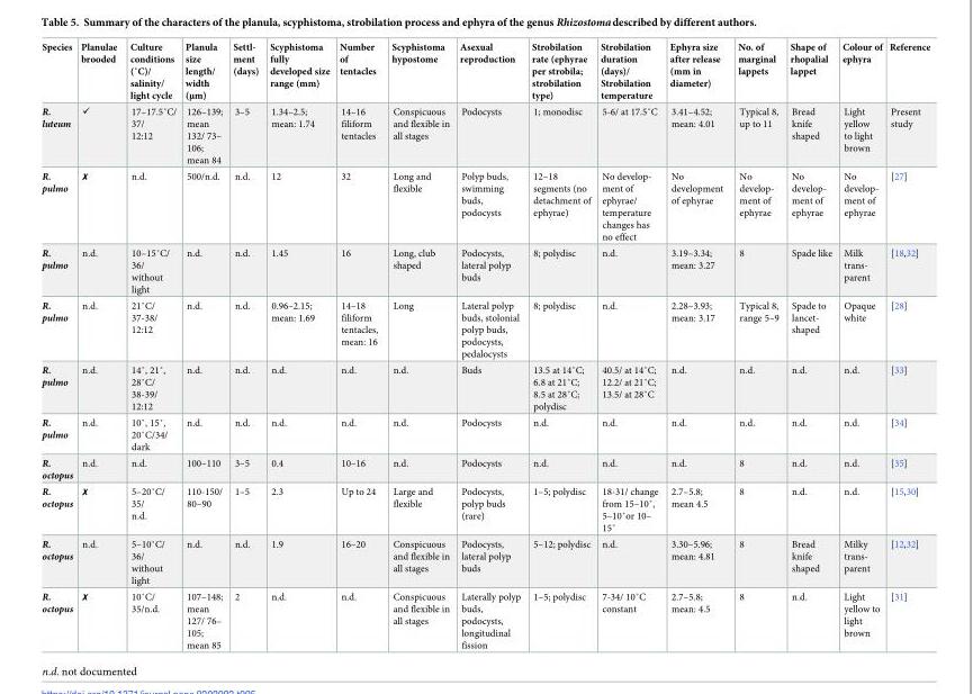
<table><thead><tr><td>Species</td><td>Planulae brooded</td><td>Culture conditions (˚C)/ salinity/ light cycle</td><td>Planula size length/ width (μm)</td><td>Settl- ment (days)</td><td>Scyphistoma fully developed size range (mm)</td><td>Number of tentacles</td><td>Scyphistoma hypostome</td><td>Asexual reproduction</td><td>Strobilation rate (ephyrae per strobila; strobilation type)</td><td>Strobilation duration (days)/ Strobilation temperature</td><td>Ephyra size after release (mm in diameter)</td><td>No. of marginal lappets</td><td>Shape of rhopalial lappet</td><td>Colour of ephyra</td><td>Reference</td></tr></thead><tbody><tr><td>R. luteum</td><td>✓</td><td>17–17.5˚C/ 37/ 12:12</td><td>126–139; mean 132/ 73– 106; mean 84</td><td>3–5</td><td>1.34–2.5; mean: 1.74</td><td>14–16 filiform tentacles</td><td>Conspicuous and flexible in all stages</td><td>Podocysts</td><td>1; monodisc</td><td>5-6/ at 17.5˚C</td><td>3.41–4.52; mean: 4.01</td><td>Typical 8, up to 11</td><td>Bread knife shaped</td><td>Light yellow to light brown</td><td>Present study</td></tr><tr><td>R. pulmo</td><td>✗</td><td>n.d.</td><td>500/n.d.</td><td>n.d.</td><td>12</td><td>32</td><td>Long and flexible</td><td>Polyp buds, swimming buds, podocysts</td><td>12–18 segments (no detachment of ephyrae)</td><td>No develop- ment of ephyrae/ temperature changes has no effect</td><td>No development of ephyrae</td><td>No develop- ment of ephyrae</td><td>No develop- ment of ephyrae</td><td>No develop- ment of ephyrae</td><td>[27]</td></tr><tr><td>R. pulmo</td><td>n.d.</td><td>10–15˚C/ 36/ without light</td><td>n.d.</td><td>n.d.</td><td>1.45</td><td>16</td><td>Long, club shaped</td><td>Podocysts, lateral polyp buds</td><td>8; polydisc</td><td>n.d.</td><td>3.19–3.34; mean: 3.27</td><td>8</td><td>Spade like</td><td>Milk trans- parent</td><td>[18,32]</td></tr><tr><td>R. pulmo</td><td>n.d.</td><td>21˚C/ 37-38/ 12:12</td><td>n.d.</td><td>n.d.</td><td>0.96–2.15; mean: 1.69</td><td>14–18 filiform tentacles, mean: 16</td><td>Long</td><td>Lateral polyp buds, stolonial polyp buds, podocysts, pedalocysts</td><td>8; polydisc</td><td>n.d.</td><td>2.28–3.93; mean: 3.17</td><td>Typical 8, range 5–9</td><td>Spade to lancet- shaped</td><td>Opaque white</td><td>[28]</td></tr><tr><td>R. pulmo</td><td>n.d.</td><td>14˚, 21˚, 28˚C/ 38-39/ 12:12</td><td>n.d.</td><td>n.d.</td><td>n.d.</td><td>n.d.</td><td>n.d.</td><td>Buds</td><td>13.5 at 14˚C; 6.8 at 21˚C; 8.5 at 28˚C; polydisc</td><td>40.5/ at 14˚C; 12.2/ at 21˚C; 13.5/ at 28˚C</td><td>n.d.</td><td>n.d.</td><td>n.d.</td><td>n.d.</td><td>[33]</td></tr><tr><td>R. pulmo</td><td>n.d.</td><td>10˚, 15˚, 20˚C/34/ dark</td><td>n.d.</td><td>n.d.</td><td>n.d.</td><td>n.d.</td><td>n.d.</td><td>Podocysts</td><td>n.d.</td><td>n.d.</td><td>n.d.</td><td>n.d.</td><td>n.d.</td><td>n.d.</td><td>[34]</td></tr><tr><td>R. octopus</td><td>n.d.</td><td>n.d.</td><td>100–110</td><td>3–5</td><td>0.4</td><td>10–16</td><td>n.d.</td><td>Podocysts</td><td>n.d.</td><td>n.d.</td><td>n.d.</td><td>8</td><td>n.d.</td><td>n.d.</td><td>[35]</td></tr><tr><td>R. octopus</td><td>✗</td><td>5–20˚C/ 35/ n.d.</td><td>110-150/ 80–90</td><td>1–5</td><td>2.3</td><td>Up to 24</td><td>Large and flexible</td><td>Podocysts, polyp buds (rare)</td><td>1–5; polydisc</td><td>18-31/ change from 15–10˚, 5–10˚or 10– 15˚</td><td>2.7–5.8; mean 4.5</td><td>8</td><td>n.d.</td><td>n.d.</td><td>[15,30]</td></tr><tr><td>R. octopus</td><td>n.d.</td><td>5–10˚C/ 36/ without light</td><td>n.d.</td><td>n.d.</td><td>1.9</td><td>16–20</td><td>Conspicuous and flexible in all stages</td><td>Podocysts, lateral polyp buds</td><td>5–12; polydisc</td><td>n.d.</td><td>3.30–5.96; mean: 4.81</td><td>8</td><td>Bread knife shaped</td><td>Milky trans- parent</td><td>[12,32]</td></tr><tr><td>R. octopus</td><td>✗</td><td>10˚C/ 35/n.d.</td><td>107–148; mean 127/ 76– 105; mean 85</td><td>2</td><td>n.d.</td><td>n.d.</td><td>Conspicuous and flexible in all stages</td><td>Laterally polyp buds, podocysts, longitudinal fission</td><td>1–5; polydisc</td><td>7-34/ 10˚C constant</td><td>2.7–5.8; mean: 4.5</td><td>8</td><td>n.d.</td><td>Light yellow to light brown</td><td>[31]</td></tr></tbody></table>